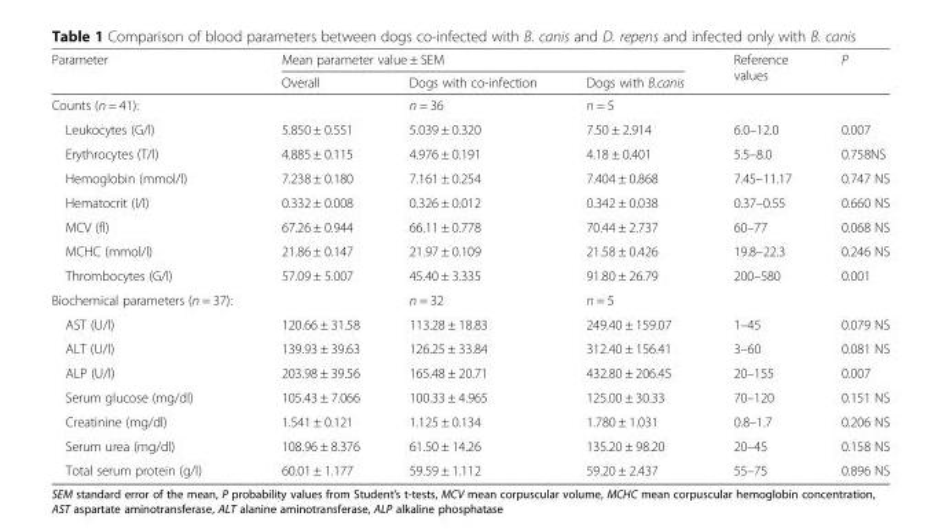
<table><thead><tr><td rowspan="2">Parameter</td><td colspan="3">Mean parameter value ± SEM</td><td rowspan="2">Reference values</td><td rowspan="2">P</td></tr><tr><td>Overall</td><td>Dogs with co-infection</td><td>Dogs with B.canis</td></tr></thead><tbody><tr><td>Counts (n = 41):</td><td></td><td>n = 36</td><td>n = 5</td><td></td><td></td></tr><tr><td>Leukocytes (G/l)</td><td>5.850 ± 0.551</td><td>5.039 ± 0.320</td><td>7.50 ± 2.914</td><td>6.0–12.0</td><td>0.007</td></tr><tr><td>Erythrocytes (T/l)</td><td>4.885 ± 0.115</td><td>4.976 ± 0.191</td><td>4.18 ± 0.401</td><td>5.5–8.0</td><td>0.758NS</td></tr><tr><td>Hemoglobin (mmol/l)</td><td>7.238 ± 0.180</td><td>7.161 ± 0.254</td><td>7.404 ± 0.868</td><td>7.45–11.17</td><td>0.747 NS</td></tr><tr><td>Hematocrit (l/l)</td><td>0.332 ± 0.008</td><td>0.326 ± 0.012</td><td>0.342 ± 0.038</td><td>0.37–0.55</td><td>0.660 NS</td></tr><tr><td>MCV (fl)</td><td>67.26 ± 0.944</td><td>66.11 ± 0.778</td><td>70.44 ± 2.737</td><td>60–77</td><td>0.068 NS</td></tr><tr><td>MCHC (mmol/l)</td><td>21.86 ± 0.147</td><td>21.97 ± 0.109</td><td>21.58 ± 0.426</td><td>19.8–22.3</td><td>0.246 NS</td></tr><tr><td>Thrombocytes (G/l)</td><td>57.09 ± 5.007</td><td>45.40 ± 3.335</td><td>91.80 ± 26.79</td><td>200–580</td><td>0.001</td></tr><tr><td>Biochemical parameters (n = 37):</td><td></td><td>n = 32</td><td>n = 5</td><td></td><td></td></tr><tr><td>AST (U/l)</td><td>120.66 ± 31.58</td><td>113.28 ± 18.83</td><td>249.40 ± 159.07</td><td>1–45</td><td>0.079 NS</td></tr><tr><td>ALT (U/l)</td><td>139.93 ± 39.63</td><td>126.25 ± 33.84</td><td>312.40 ± 156.41</td><td>3–60</td><td>0.081 NS</td></tr><tr><td>ALP (U/l)</td><td>203.98 ± 39.56</td><td>165.48 ± 20.71</td><td>432.80 ± 206.45</td><td>20–155</td><td>0.007</td></tr><tr><td>Serum glucose (mg/dl)</td><td>105.43 ± 7.066</td><td>100.33 ± 4.965</td><td>125.00 ± 30.33</td><td>70–120</td><td>0.151 NS</td></tr><tr><td>Creatinine (mg/dl)</td><td>1.541 ± 0.121</td><td>1.125 ± 0.134</td><td>1.780 ± 1.031</td><td>0.8–1.7</td><td>0.206 NS</td></tr><tr><td>Serum urea (mg/dl)</td><td>108.96 ± 8.376</td><td>61.50 ± 14.26</td><td>135.20 ± 98.20</td><td>20–45</td><td>0.158 NS</td></tr><tr><td>Total serum protein (g/l)</td><td>60.01 ± 1.177</td><td>59.59 ± 1.112</td><td>59.20 ± 2.437</td><td>55–75</td><td>0.896 NS</td></tr></tbody></table>